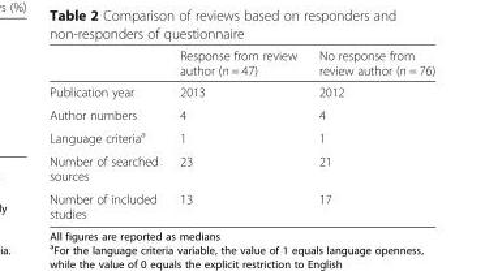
<table><thead><tr><td></td><td>Response from review author (n = 47)</td><td>No response from review author (n = 76)</td></tr></thead><tbody><tr><td>Publication year</td><td>2013</td><td>2012</td></tr><tr><td>Author numbers</td><td>4</td><td>4</td></tr><tr><td>Language criteria<sup>a</sup></td><td>1</td><td>1</td></tr><tr><td>Number of searched sources</td><td>23</td><td>21</td></tr><tr><td>Number of included studies</td><td>13</td><td>17</td></tr></tbody></table>